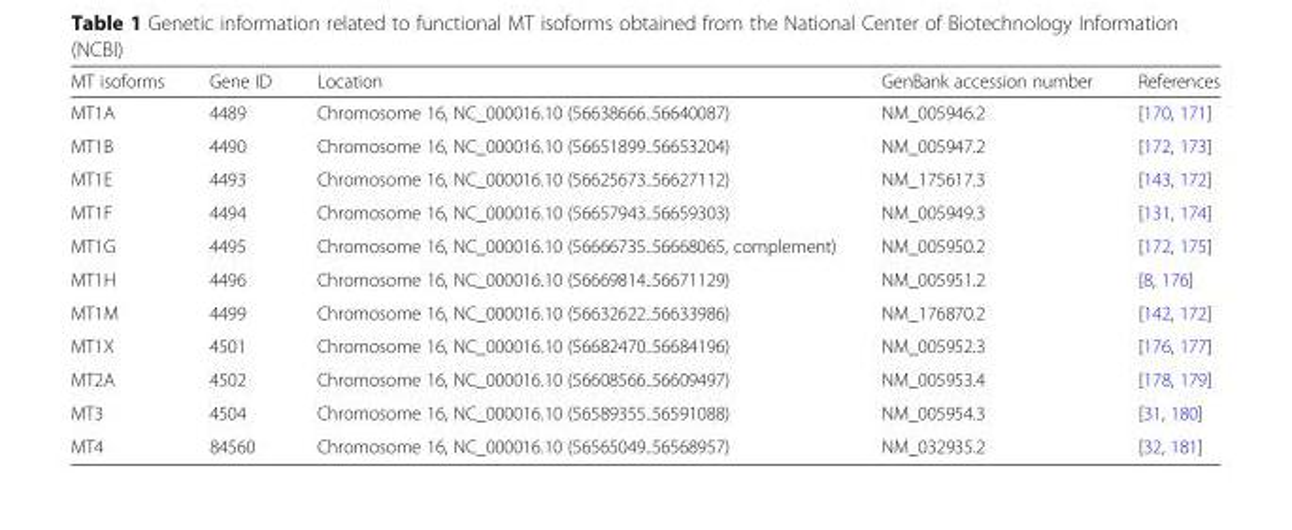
<table><thead><tr><td>MT isoforms</td><td>Gene ID</td><td>Location</td><td>GenBank accession number</td><td>References</td></tr></thead><tbody><tr><td>MT1A</td><td>4489</td><td>Chromosome 16, NC_000016.10 (56638666..56640087)</td><td>NM_005946.2</td><td>[170, 171]</td></tr><tr><td>MT1B</td><td>4490</td><td>Chromosome 16, NC_000016.10 (56651899..56653204)</td><td>NM_005947.2</td><td>[172, 173]</td></tr><tr><td>MT1E</td><td>4493</td><td>Chromosome 16, NC_000016.10 (56625673..56627112)</td><td>NM_175617.3</td><td>[143, 172]</td></tr><tr><td>MT1F</td><td>4494</td><td>Chromosome 16, NC_000016.10 (56657943..56659303)</td><td>NM_005949.3</td><td>[131, 174]</td></tr><tr><td>MT1G</td><td>4495</td><td>Chromosome 16, NC_000016.10 (56666735..56668065, complement)</td><td>NM_005950.2</td><td>[172, 175]</td></tr><tr><td>MT1H</td><td>4496</td><td>Chromosome 16, NC_000016.10 (56669814..56671129)</td><td>NM_005951.2</td><td>[8, 176]</td></tr><tr><td>MT1M</td><td>4499</td><td>Chromosome 16, NC_000016.10 (56632622..56633986)</td><td>NM_176870.2</td><td>[142, 172]</td></tr><tr><td>MT1X</td><td>4501</td><td>Chromosome 16, NC_000016.10 (56682470..56684196)</td><td>NM_005952.3</td><td>[176, 177]</td></tr><tr><td>MT2A</td><td>4502</td><td>Chromosome 16, NC_000016.10 (56608566..56609497)</td><td>NM_005953.4</td><td>[178, 179]</td></tr><tr><td>MT3</td><td>4504</td><td>Chromosome 16, NC_000016.10 (56589355..56591088)</td><td>NM_005954.3</td><td>[31, 180]</td></tr><tr><td>MT4</td><td>84560</td><td>Chromosome 16, NC_000016.10 (56565049..56568957)</td><td>NM_032935.2</td><td>[32, 181]</td></tr></tbody></table>